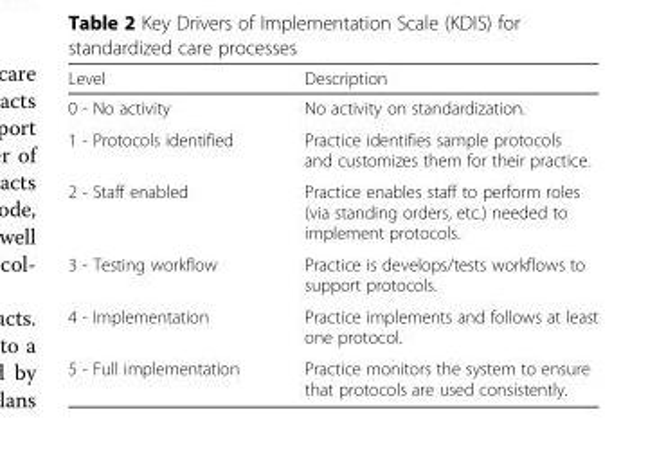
<table><thead><tr><td>Level</td><td>Description</td></tr></thead><tbody><tr><td>0 - No activity</td><td>No activity on standardization.</td></tr><tr><td>1 - Protocols identified</td><td>Practice identifies sample protocols and customizes them for their practice.</td></tr><tr><td>2 - Staff enabled</td><td>Practice enables staff to perform roles (via standing orders, etc.) needed to implement protocols.</td></tr><tr><td>3 - Testing workflow</td><td>Practice is develops/tests workflows to support protocols.</td></tr><tr><td>4 - Implementation</td><td>Practice implements and follows at least one protocol.</td></tr><tr><td>5 - Full implementation</td><td>Practice monitors the system to ensure that protocols are used consistently.</td></tr></tbody></table>